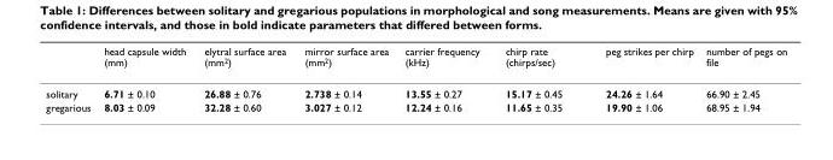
<table><thead><tr><td></td><td>head capsule width (mm)</td><td>elytral surface area (mm<sup>2</sup>)</td><td>mirror surface area (mm<sup>2</sup>)</td><td>carrier frequency (kHz)</td><td>chirp rate (chirps/sec)</td><td>peg strikes per chirp</td><td>number of pegs on file</td></tr></thead><tbody><tr><td>solitary</td><td>6.71 ± 0.10</td><td>26.88 ± 0.76</td><td>2.738 ± 0.14</td><td>13.55 ± 0.27</td><td>15.17 ± 0.45</td><td>24.26 ± 1.64</td><td>66.90 ± 2.45</td></tr><tr><td>gregarious</td><td>8.03 ± 0.09</td><td>32.28 ± 0.60</td><td>3.027 ± 0.12</td><td>12.24 ± 0.16</td><td>11.65 ± 0.35</td><td>19.90 ± 1.06</td><td>68.95 ± 1.94</td></tr></tbody></table>